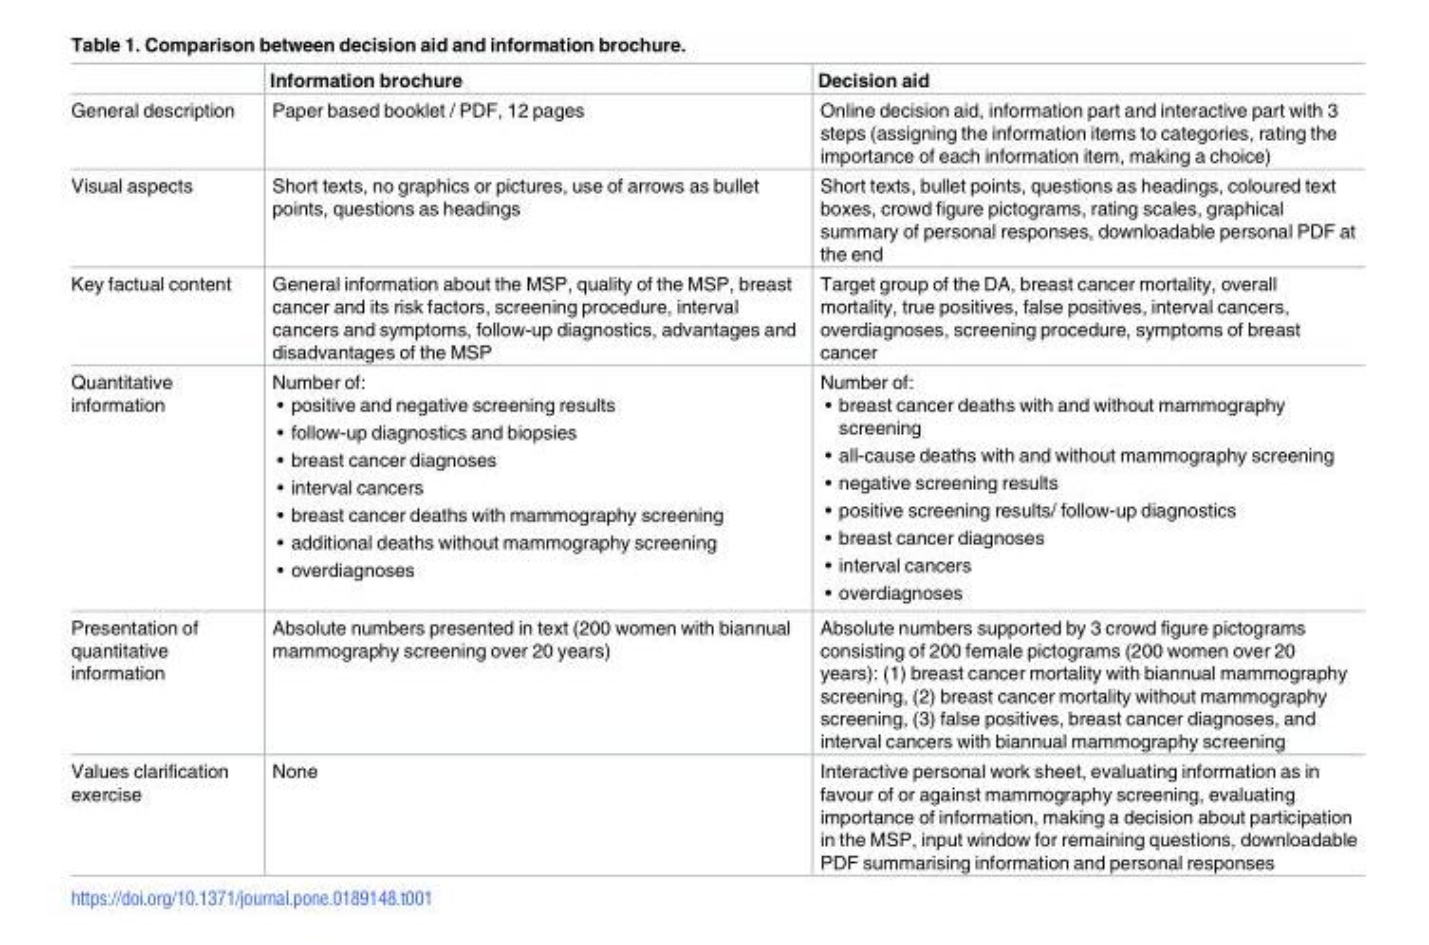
<table><thead><tr><td></td><td>Information brochure</td><td>Decision aid</td></tr></thead><tbody><tr><td>General description</td><td>Paper based booklet / PDF, 12 pages</td><td>Online decision aid, information part and interactive part with 3 steps (assigning the information items to categories, rating the importance of each information item, making a choice)</td></tr><tr><td>Visual aspects</td><td>Short texts, no graphics or pictures, use of arrows as bullet points, questions as headings</td><td>Short texts, bullet points, questions as headings, coloured text boxes, crowd figure pictograms, rating scales, graphical summary of personal responses, downloadable personal PDF at the end</td></tr><tr><td>Key factual content</td><td>General information about the MSP, quality of the MSP, breast cancer and its risk factors, screening procedure, interval cancers and symptoms, follow-up diagnostics, advantages and disadvantages of the MSP</td><td>Target group of the DA, breast cancer mortality, overall mortality, true positives, false positives, interval cancers, overdiagnoses, screening procedure, symptoms of breast cancer</td></tr><tr><td>Quantitative information</td><td>Number of: • positive and negative screening results • follow-up diagnostics and biopsies • breast cancer diagnoses • interval cancers • breast cancer deaths with mammography screening • additional deaths without mammography screening • overdiagnoses</td><td>Number of: • breast cancer deaths with and without mammography screening • all-cause deaths with and without mammography screening • negative screening results • positive screening results/ follow-up diagnostics • breast cancer diagnoses • interval cancers • overdiagnoses</td></tr><tr><td>Presentation of quantitative information</td><td>Absolute numbers presented in text (200 women with biannual mammography screening over 20 years)</td><td>Absolute numbers supported by 3 crowd figure pictograms consisting of 200 female pictograms (200 women over 20 years): (1) breast cancer mortality with biannual mammography screening, (2) breast cancer mortality without mammography screening, (3) false positives, breast cancer diagnoses, and interval cancers with biannual mammography screening</td></tr><tr><td>Values clarification exercise</td><td>None</td><td>Interactive personal work sheet, evaluating information as in favour of or against mammography screening, evaluating importance of information, making a decision about participation in the MSP, input window for remaining questions, downloadable PDF summarising information and personal responses</td></tr></tbody></table>